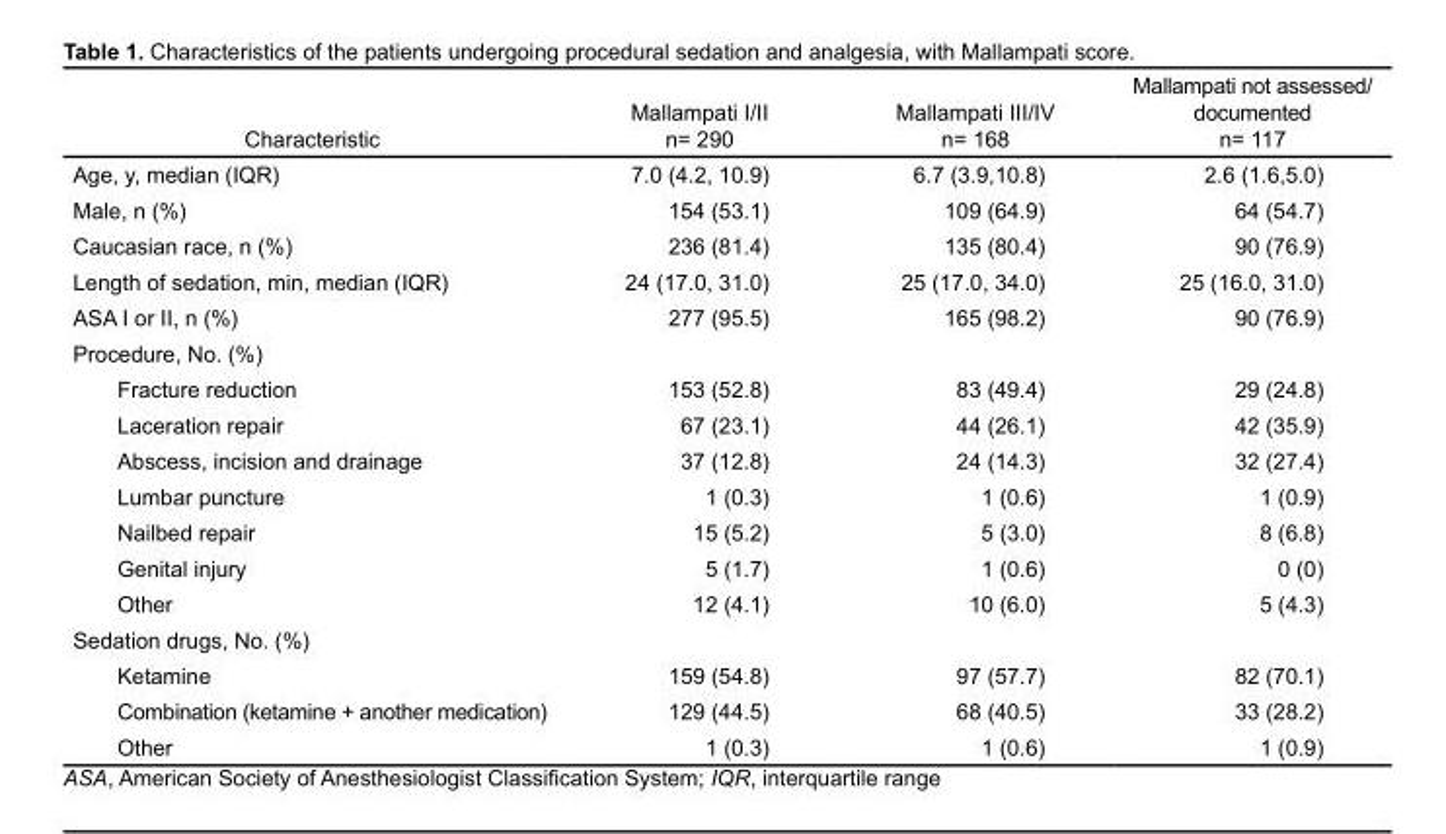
<table><thead><tr><td>Characteristic</td><td>Mallampati I/II n= 290</td><td>Mallampati III/IV n= 168</td><td>Mallampati not assessed/ documented n= 117</td></tr></thead><tbody><tr><td>Age, y, median (IQR)</td><td>7.0 (4.2, 10.9)</td><td>6.7 (3.9,10.8)</td><td>2.6 (1.6,5.0)</td></tr><tr><td>Male, n (%)</td><td>154 (53.1)</td><td>109 (64.9)</td><td>64 (54.7)</td></tr><tr><td>Caucasian race, n (%)</td><td>236 (81.4)</td><td>135 (80.4)</td><td>90 (76.9)</td></tr><tr><td>Length of sedation, min, median (IQR)</td><td>24 (17.0, 31.0)</td><td>25 (17.0, 34.0)</td><td>25 (16.0, 31.0)</td></tr><tr><td>ASA I or II, n (%)</td><td>277 (95.5)</td><td>165 (98.2)</td><td>90 (76.9)</td></tr><tr><td colspan="4">Procedure, No. (%)</td></tr><tr><td>Fracture reduction</td><td>153 (52.8)</td><td>83 (49.4)</td><td>29 (24.8)</td></tr><tr><td>Laceration repair</td><td>67 (23.1)</td><td>44 (26.1)</td><td>42 (35.9)</td></tr><tr><td>Abscess, incision and drainage</td><td>37 (12.8)</td><td>24 (14.3)</td><td>32 (27.4)</td></tr><tr><td>Lumbar puncture</td><td>1 (0.3)</td><td>1 (0.6)</td><td>1 (0.9)</td></tr><tr><td>Nailbed repair</td><td>15 (5.2)</td><td>5 (3.0)</td><td>8 (6.8)</td></tr><tr><td>Genital injury</td><td>5 (1.7)</td><td>1 (0.6)</td><td>0 (0)</td></tr><tr><td>Other</td><td>12 (4.1)</td><td>10 (6.0)</td><td>5 (4.3)</td></tr><tr><td colspan="4">Sedation drugs, No. (%)</td></tr><tr><td>Ketamine</td><td>159 (54.8)</td><td>97 (57.7)</td><td>82 (70.1)</td></tr><tr><td>Combination (ketamine + another medication)</td><td>129 (44.5)</td><td>68 (40.5)</td><td>33 (28.2)</td></tr><tr><td>Other</td><td>1 (0.3)</td><td>1 (0.6)</td><td>1 (0.9)</td></tr></tbody></table>